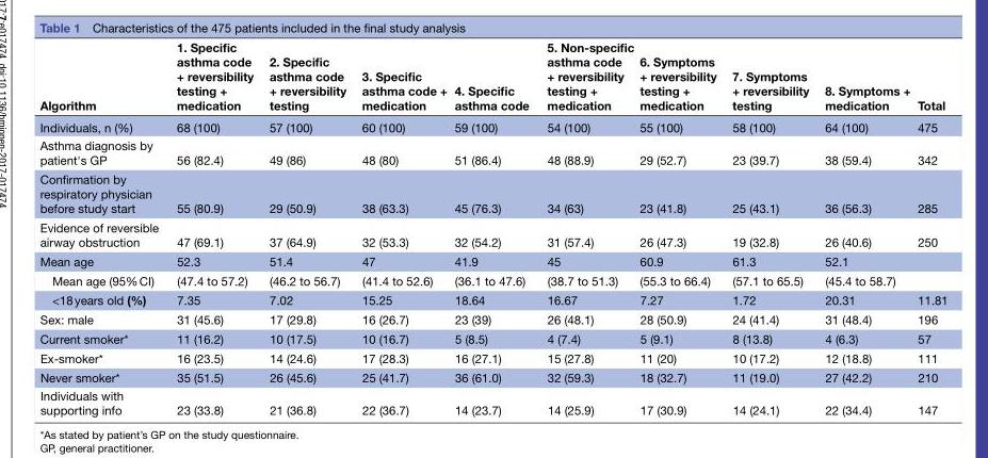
<table><thead><tr><td>Algorithm</td><td>1. Specific asthma code + reversibility testing + medication</td><td>2. Specific asthma code + reversibility testing</td><td>3. Specific asthma code + medication</td><td>4. Specific asthma code</td><td>5. Non-specific asthma code + reversibility testing + medication</td><td>6. Symptoms + reversibility testing + medication</td><td>7. Symptoms + reversibility testing</td><td>8. Symptoms + medication</td><td>Total</td></tr></thead><tbody><tr><td>Individuals, n (%)</td><td>68 (100)</td><td>57 (100)</td><td>60 (100)</td><td>59 (100)</td><td>54 (100)</td><td>55 (100)</td><td>58 (100)</td><td>64 (100)</td><td>475</td></tr><tr><td>Asthma diagnosis by patient&#x27;s GP</td><td>56 (82.4)</td><td>49 (86)</td><td>48 (80)</td><td>51 (86.4)</td><td>48 (88.9)</td><td>29 (52.7)</td><td>23 (39.7)</td><td>38 (59.4)</td><td>342</td></tr><tr><td>Confirmation by respiratory physician before study start</td><td>55 (80.9)</td><td>29 (50.9)</td><td>38 (63.3)</td><td>45 (76.3)</td><td>34 (63)</td><td>23 (41.8)</td><td>25 (43.1)</td><td>36 (56.3)</td><td>285</td></tr><tr><td>Evidence of reversible airway obstruction</td><td>47 (69.1)</td><td>37 (64.9)</td><td>32 (53.3)</td><td>32 (54.2)</td><td>31 (57.4)</td><td>26 (47.3)</td><td>19 (32.8)</td><td>26 (40.6)</td><td>250</td></tr><tr><td>Mean age</td><td>52.3</td><td>51.4</td><td>47</td><td>41.9</td><td>45</td><td>60.9</td><td>61.3</td><td>52.1</td><td></td></tr><tr><td>Mean age (95% CI)</td><td>(47.4 to 57.2)</td><td>(46.2 to 56.7)</td><td>(41.4 to 52.6)</td><td>(36.1 to 47.6)</td><td>(38.7 to 51.3)</td><td>(55.3 to 66.4)</td><td>(57.1 to 65.5)</td><td>(45.4 to 58.7)</td><td></td></tr><tr><td>&lt;18 years old (%)</td><td>7.35</td><td>7.02</td><td>15.25</td><td>18.64</td><td>16.67</td><td>7.27</td><td>1.72</td><td>20.31</td><td>11.81</td></tr><tr><td>Sex: male</td><td>31 (45.6)</td><td>17 (29.8)</td><td>16 (26.7)</td><td>23 (39)</td><td>26 (48.1)</td><td>28 (50.9)</td><td>24 (41.4)</td><td>31 (48.4)</td><td>196</td></tr><tr><td>Current smoker*</td><td>11 (16.2)</td><td>10 (17.5)</td><td>10 (16.7)</td><td>5 (8.5)</td><td>4 (7.4)</td><td>5 (9.1)</td><td>8 (13.8)</td><td>4 (6.3)</td><td>57</td></tr><tr><td>Ex-smoker*</td><td>16 (23.5)</td><td>14 (24.6)</td><td>17 (28.3)</td><td>16 (27.1)</td><td>15 (27.8)</td><td>11 (20)</td><td>10 (17.2)</td><td>12 (18.8)</td><td>111</td></tr><tr><td>Never smoker*</td><td>35 (51.5)</td><td>26 (45.6)</td><td>25 (41.7)</td><td>36 (61.0)</td><td>32 (59.3)</td><td>18 (32.7)</td><td>11 (19.0)</td><td>27 (42.2)</td><td>210</td></tr><tr><td>Individuals with supporting info</td><td>23 (33.8)</td><td>21 (36.8)</td><td>22 (36.7)</td><td>14 (23.7)</td><td>14 (25.9)</td><td>17 (30.9)</td><td>14 (24.1)</td><td>22 (34.4)</td><td>147</td></tr></tbody></table>